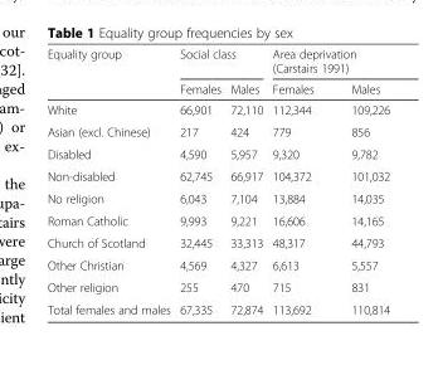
<table><thead><tr><td rowspan="2">Equality group</td><td colspan="2">Social class</td><td colspan="2">Area deprivation (Carstairs 1991)</td></tr><tr><td>Females</td><td>Males</td><td>Females</td><td>Males</td></tr></thead><tbody><tr><td>White</td><td>66,901</td><td>72,110</td><td>112,344</td><td>109,226</td></tr><tr><td>Asian (excl. Chinese)</td><td>217</td><td>424</td><td>779</td><td>856</td></tr><tr><td>Disabled</td><td>4,590</td><td>5,957</td><td>9,320</td><td>9,782</td></tr><tr><td>Non-disabled</td><td>62,745</td><td>66,917</td><td>104,372</td><td>101,032</td></tr><tr><td>No religion</td><td>6,043</td><td>7,104</td><td>13,884</td><td>14,035</td></tr><tr><td>Roman Catholic</td><td>9,993</td><td>9,221</td><td>16,606</td><td>14,165</td></tr><tr><td>Church of Scotland</td><td>32,445</td><td>33,313</td><td>48,317</td><td>44,793</td></tr><tr><td>Other Christian</td><td>4,569</td><td>4,327</td><td>6,613</td><td>5,557</td></tr><tr><td>Other religion</td><td>255</td><td>470</td><td>715</td><td>831</td></tr><tr><td>Total females and males</td><td>67,335</td><td>72,874</td><td>113,692</td><td>110,814</td></tr></tbody></table>